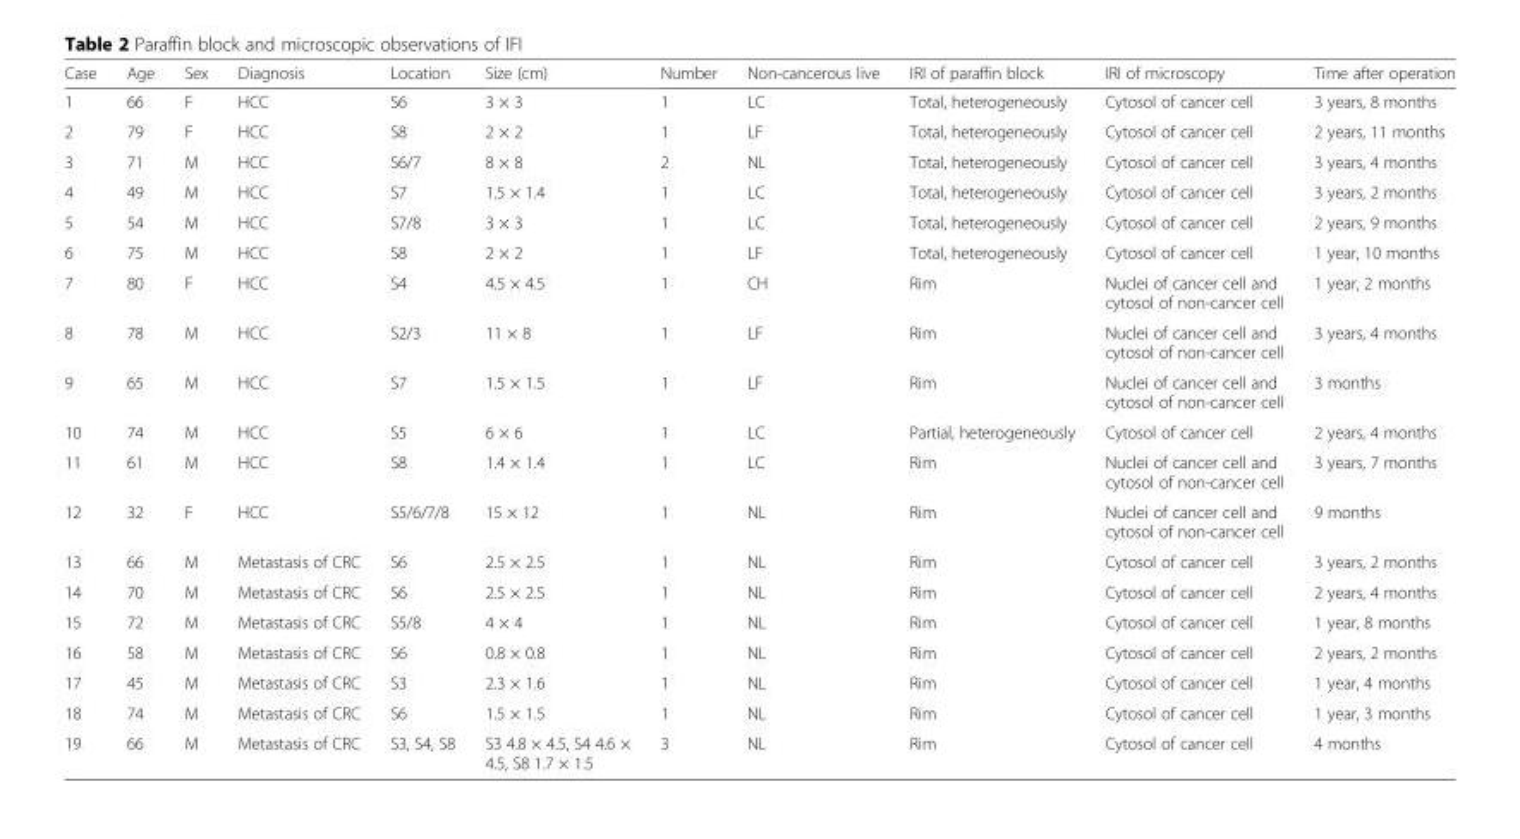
<table><thead><tr><td>Case</td><td>Age</td><td>Sex</td><td>Diagnosis</td><td>Location</td><td>Size (cm)</td><td>Number</td><td>Non-cancerous live</td><td>IRI of paraffin block</td><td>IRI of microscopy</td><td>Time after operation</td></tr></thead><tbody><tr><td>1</td><td>66</td><td>F</td><td>HCC</td><td>S6</td><td>3 × 3</td><td>1</td><td>LC</td><td>Total, heterogeneously</td><td>Cytosol of cancer cell</td><td>3 years, 8 months</td></tr><tr><td>2</td><td>79</td><td>F</td><td>HCC</td><td>S8</td><td>2 × 2</td><td>1</td><td>LF</td><td>Total, heterogeneously</td><td>Cytosol of cancer cell</td><td>2 years, 11 months</td></tr><tr><td>3</td><td>71</td><td>M</td><td>HCC</td><td>S6/7</td><td>8 × 8</td><td>2</td><td>NL</td><td>Total, heterogeneously</td><td>Cytosol of cancer cell</td><td>3 years, 4 months</td></tr><tr><td>4</td><td>49</td><td>M</td><td>HCC</td><td>S7</td><td>1.5 × 1.4</td><td>1</td><td>LC</td><td>Total, heterogeneously</td><td>Cytosol of cancer cell</td><td>3 years, 2 months</td></tr><tr><td>5</td><td>54</td><td>M</td><td>HCC</td><td>S7/8</td><td>3 × 3</td><td>1</td><td>LC</td><td>Total, heterogeneously</td><td>Cytosol of cancer cell</td><td>2 years, 9 months</td></tr><tr><td>6</td><td>75</td><td>M</td><td>HCC</td><td>S8</td><td>2 × 2</td><td>1</td><td>LF</td><td>Total, heterogeneously</td><td>Cytosol of cancer cell</td><td>1 year, 10 months</td></tr><tr><td>7</td><td>80</td><td>F</td><td>HCC</td><td>S4</td><td>4.5 × 4.5</td><td>1</td><td>CH</td><td>Rim</td><td>Nuclei of cancer cell and cytosol of non-cancer cell</td><td>1 year, 2 months</td></tr><tr><td>8</td><td>78</td><td>M</td><td>HCC</td><td>S2/3</td><td>11 × 8</td><td>1</td><td>LF</td><td>Rim</td><td>Nuclei of cancer cell and cytosol of non-cancer cell</td><td>3 years, 4 months</td></tr><tr><td>9</td><td>65</td><td>M</td><td>HCC</td><td>S7</td><td>1.5 × 1.5</td><td>1</td><td>LF</td><td>Rim</td><td>Nuclei of cancer cell and cytosol of non-cancer cell</td><td>3 months</td></tr><tr><td>10</td><td>74</td><td>M</td><td>HCC</td><td>S5</td><td>6 × 6</td><td>1</td><td>LC</td><td>Partial, heterogeneously</td><td>Cytosol of cancer cell</td><td>2 years, 4 months</td></tr><tr><td>11</td><td>61</td><td>M</td><td>HCC</td><td>S8</td><td>1.4 × 1.4</td><td>1</td><td>LC</td><td>Rim</td><td>Nuclei of cancer cell and cytosol of non-cancer cell</td><td>3 years, 7 months</td></tr><tr><td>12</td><td>32</td><td>F</td><td>HCC</td><td>S5/6/7/8</td><td>15 × 12</td><td>1</td><td>NL</td><td>Rim</td><td>Nuclei of cancer cell and cytosol of non-cancer cell</td><td>9 months</td></tr><tr><td>13</td><td>66</td><td>M</td><td>Metastasis of CRC</td><td>S6</td><td>2.5 × 2.5</td><td>1</td><td>NL</td><td>Rim</td><td>Cytosol of cancer cell</td><td>3 years, 2 months</td></tr><tr><td>14</td><td>70</td><td>M</td><td>Metastasis of CRC</td><td>S6</td><td>2.5 × 2.5</td><td>1</td><td>NL</td><td>Rim</td><td>Cytosol of cancer cell</td><td>2 years, 4 months</td></tr><tr><td>15</td><td>72</td><td>M</td><td>Metastasis of CRC</td><td>S5/8</td><td>4 × 4</td><td>1</td><td>NL</td><td>Rim</td><td>Cytosol of cancer cell</td><td>1 year, 8 months</td></tr><tr><td>16</td><td>58</td><td>M</td><td>Metastasis of CRC</td><td>S6</td><td>0.8 × 0.8</td><td>1</td><td>NL</td><td>Rim</td><td>Cytosol of cancer cell</td><td>2 years, 2 months</td></tr><tr><td>17</td><td>45</td><td>M</td><td>Metastasis of CRC</td><td>S3</td><td>2.3 × 1.6</td><td>1</td><td>NL</td><td>Rim</td><td>Cytosol of cancer cell</td><td>1 year, 4 months</td></tr><tr><td>18</td><td>74</td><td>M</td><td>Metastasis of CRC</td><td>S6</td><td>1.5 × 1.5</td><td>1</td><td>NL</td><td>Rim</td><td>Cytosol of cancer cell</td><td>1 year, 3 months</td></tr><tr><td>19</td><td>66</td><td>M</td><td>Metastasis of CRC</td><td>S3, S4, S8</td><td>S3 4.8 × 4.5, S4 4.6 × 4.5, S8 1.7 × 1.5</td><td>3</td><td>NL</td><td>Rim</td><td>Cytosol of cancer cell</td><td>4 months</td></tr></tbody></table>